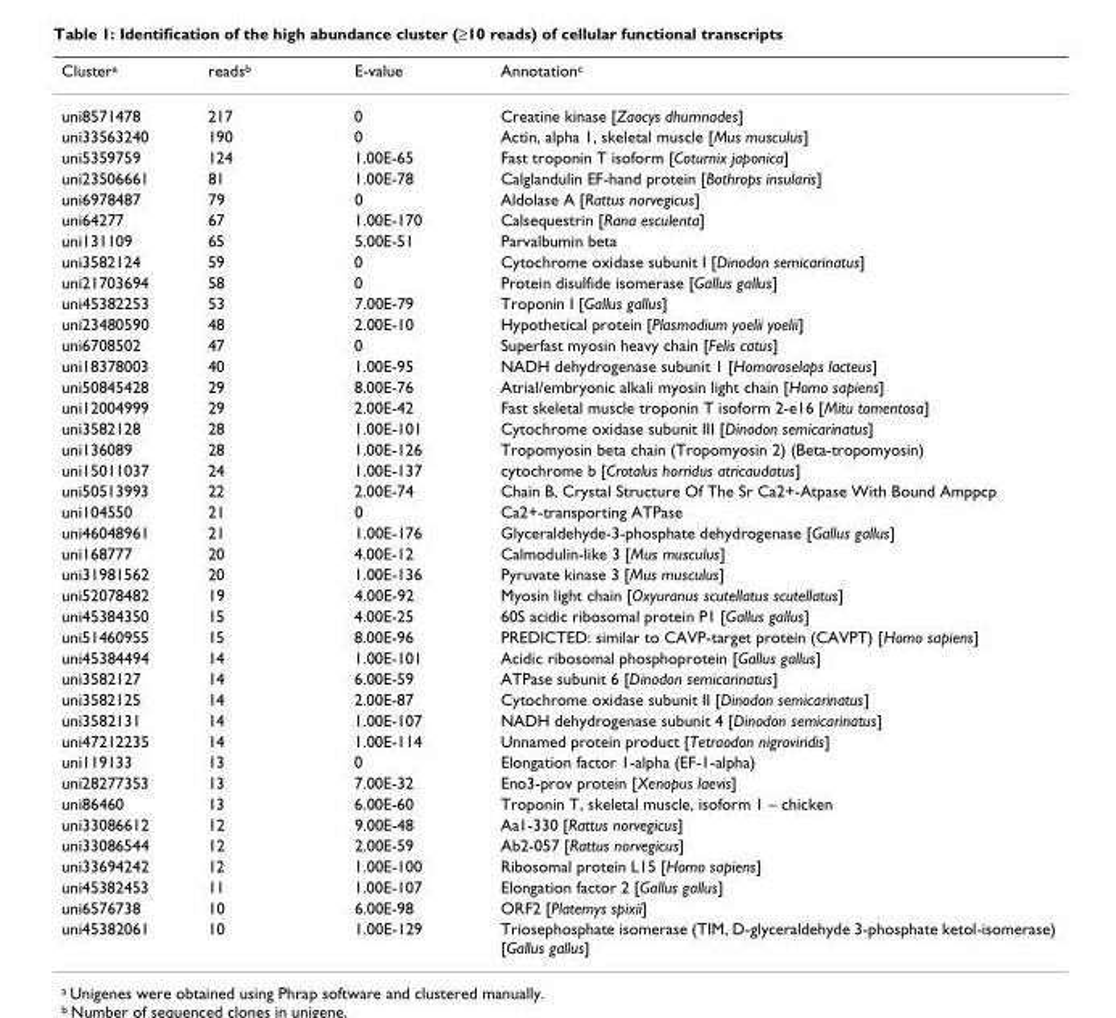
<table><thead><tr><td>Clustera</td><td>readsb</td><td>E-value</td><td>Annotationc</td></tr></thead><tbody><tr><td>uni8571478</td><td>217</td><td>0</td><td>Creatine kinase [Zaocys dhumnades]</td></tr><tr><td>uni33563240</td><td>190</td><td>0</td><td>Actin, alpha 1, skeletal muscle [Mus musculus]</td></tr><tr><td>uni5359759</td><td>124</td><td>1.00E-65</td><td>Fast troponin T isoform [Coturnix japonica]</td></tr><tr><td>uni23506661</td><td>81</td><td>1.00E-78</td><td>Calglandulin EF-hand protein [Bothrops insularis]</td></tr><tr><td>uni6978487</td><td>79</td><td>0</td><td>Aldolase A [Rattus norvegicus]</td></tr><tr><td>uni64277</td><td>67</td><td>1.00E-170</td><td>Calsequestrin [Rana esculenta]</td></tr><tr><td>uni131109</td><td>65</td><td>5.00E-51</td><td>Parvalbumin beta</td></tr><tr><td>uni3582124</td><td>59</td><td>0</td><td>Cytochrome oxidase subunit I [Dinodon semicarinatus]</td></tr><tr><td>uni21703694</td><td>58</td><td>0</td><td>Protein disulfide isomerase [Gallus gallus]</td></tr><tr><td>uni45382253</td><td>53</td><td>7.00E-79</td><td>Troponin I [Gallus gallus]</td></tr><tr><td>uni23480590</td><td>48</td><td>2.00E-10</td><td>Hypothetical protein [Plasmodium yoelii yoelii]</td></tr><tr><td>uni6708502</td><td>47</td><td>0</td><td>Superfast myosin heavy chain [Felis catus]</td></tr><tr><td>uni18378003</td><td>40</td><td>1.00E-95</td><td>NADH dehydrogenase subunit 1 [Homoroselaps lacteus]</td></tr><tr><td>uni50845428</td><td>29</td><td>8.00E-76</td><td>Atrial/embryonic alkali myosin light chain [Homo sapiens]</td></tr><tr><td>uni12004999</td><td>29</td><td>2.00E-42</td><td>Fast skeletal muscle troponin T isoform 2-e16 [Mitu tomentosa]</td></tr><tr><td>uni3582128</td><td>28</td><td>1.00E-101</td><td>Cytochrome oxidase subunit III [Dinodon semicarinatus]</td></tr><tr><td>uni136089</td><td>28</td><td>1.00E-126</td><td>Tropomyosin beta chain (Tropomyosin 2) (Beta-tropomyosin)</td></tr><tr><td>uni15011037</td><td>24</td><td>1.00E-137</td><td>cytochrome b [Crotalus horridus atricaudatus]</td></tr><tr><td>uni50513993</td><td>22</td><td>2.00E-74</td><td>Chain B, Crystal Structure Of The Sr Ca2+-Atpase With Bound Amppcp</td></tr><tr><td>uni104550</td><td>21</td><td>0</td><td>Ca2+-transporting ATPase</td></tr><tr><td>uni46048961</td><td>21</td><td>1.00E-176</td><td>Glyceraldehyde-3-phosphate dehydrogenase [Gallus gallus]</td></tr><tr><td>uni168777</td><td>20</td><td>4.00E-12</td><td>Calmodulin-like 3 [Mus musculus]</td></tr><tr><td>uni31981562</td><td>20</td><td>1.00E-136</td><td>Pyruvate kinase 3 [Mus musculus]</td></tr><tr><td>uni52078482</td><td>19</td><td>4.00E-92</td><td>Myosin light chain [Oxyuranus scutellatus scutellatus]</td></tr><tr><td>uni45384350</td><td>15</td><td>4.00E-25</td><td>60S acidic ribosomal protein P1 [Gallus gallus]</td></tr><tr><td>uni51460955</td><td>15</td><td>8.00E-96</td><td>PREDICTED: similar to CAVP-target protein (CAVPT) [Homo sapiens]</td></tr><tr><td>uni45384494</td><td>14</td><td>1.00E-101</td><td>Acidic ribosomal phosphoprotein [Gallus gallus]</td></tr><tr><td>uni3582127</td><td>14</td><td>6.00E-59</td><td>ATPase subunit 6 [Dinodon semicarinatus]</td></tr><tr><td>uni3582125</td><td>14</td><td>2.00E-87</td><td>Cytochrome oxidase subunit II [Dinodon semicarinatus]</td></tr><tr><td>uni3582131</td><td>14</td><td>1.00E-107</td><td>NADH dehydrogenase subunit 4 [Dinodon semicarinatus]</td></tr><tr><td>uni47212235</td><td>14</td><td>1.00E-114</td><td>Unnamed protein product [Tetraodon nigroviridis]</td></tr><tr><td>uni119133</td><td>13</td><td>0</td><td>Elongation factor 1-alpha (EF-1-alpha)</td></tr><tr><td>uni28277353</td><td>13</td><td>7.00E-32</td><td>Eno3-prov protein [Xenopus laevis]</td></tr><tr><td>uni86460</td><td>13</td><td>6.00E-60</td><td>Troponin T, skeletal muscle, isoform 1 – chicken</td></tr><tr><td>uni33086612</td><td>12</td><td>9.00E-48</td><td>Aa1-330 [Rattus norvegicus]</td></tr><tr><td>uni33086544</td><td>12</td><td>2.00E-59</td><td>Ab2-057 [Rattus norvegicus]</td></tr><tr><td>uni33694242</td><td>12</td><td>1.00E-100</td><td>Ribosomal protein L15 [Homo sapiens]</td></tr><tr><td>uni45382453</td><td>11</td><td>1.00E-107</td><td>Elongation factor 2 [Gallus gallus]</td></tr><tr><td>uni6576738</td><td>10</td><td>6.00E-98</td><td>ORF2 [Platemys spixii]</td></tr><tr><td>uni45382061</td><td>10</td><td>1.00E-129</td><td>Triosephosphate isomerase (TIM, D-glyceraldehyde 3-phosphate ketol-isomerase) [Gallus gallus]</td></tr></tbody></table>